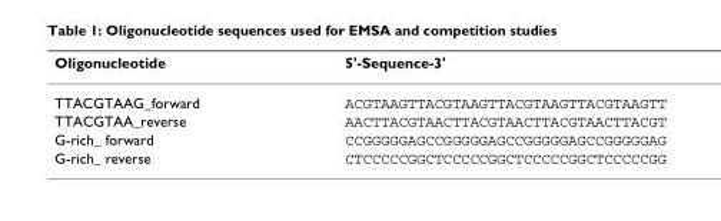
<table><thead><tr><td>Oligonucleotide</td><td>5&#x27;-Sequence-3&#x27;</td></tr></thead><tbody><tr><td>TTACGTAAG_forward</td><td>ACGTAAGTTACGTAAGTTACGTAAGTTACGTAAGTT</td></tr><tr><td>TTACGTAA_reverse</td><td>AACTTACGTAACTTACGTAACTTACGTAACTTACGT</td></tr><tr><td>G-rich_ forward</td><td>CCGGGGGAGCCGGGGGAGCCGGGGGAGCCGGGGGAG</td></tr><tr><td>G-rich_ reverse</td><td>CTCCCCCGGCTCCCCCGGCTCCCCCGGCTCCCCCGG</td></tr></tbody></table>